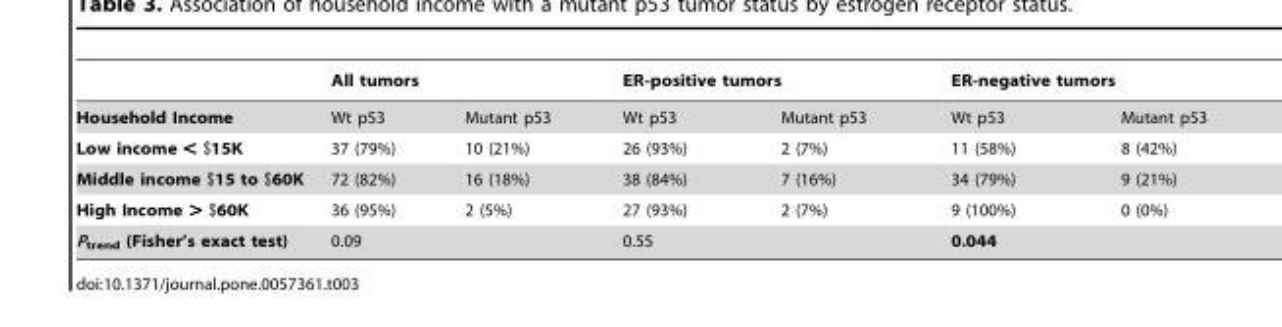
<table><thead><tr><td rowspan="2">Household Income</td><td colspan="2">All tumors</td><td colspan="2">ER-positive tumors</td><td colspan="2">ER-negative tumors</td></tr><tr><td>Wt p53</td><td>Mutant p53</td><td>Wt p53</td><td>Mutant p53</td><td>Wt p53</td><td>Mutant p53</td></tr></thead><tbody><tr><td>Low income &lt; $15K</td><td>37 (79%)</td><td>10 (21%)</td><td>26 (93%)</td><td>2 (7%)</td><td>11 (58%)</td><td>8 (42%)</td></tr><tr><td>Middle income $15 to $60K</td><td>72 (82%)</td><td>16 (18%)</td><td>38 (84%)</td><td>7 (16%)</td><td>34 (79%)</td><td>9 (21%)</td></tr><tr><td>High Income &gt; $60K</td><td>36 (95%)</td><td>2 (5%)</td><td>27 (93%)</td><td>2 (7%)</td><td>9 (100%)</td><td>0 (0%)</td></tr><tr><td>P<sub>trend</sub> (Fisher’s exact test)</td><td colspan="2">0.09</td><td colspan="2">0.55</td><td colspan="2">0.044</td></tr></tbody></table>